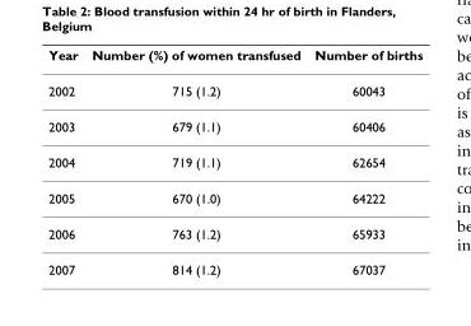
<table><thead><tr><td>Year</td><td>Number (%) of women transfused</td><td>Number of births</td></tr></thead><tbody><tr><td>2002</td><td>715 (1.2)</td><td>60043</td></tr><tr><td>2003</td><td>679 (1.1)</td><td>60406</td></tr><tr><td>2004</td><td>719 (1.1)</td><td>62654</td></tr><tr><td>2005</td><td>670 (1.0)</td><td>64222</td></tr><tr><td>2006</td><td>763 (1.2)</td><td>65933</td></tr><tr><td>2007</td><td>814 (1.2)</td><td>67037</td></tr></tbody></table>